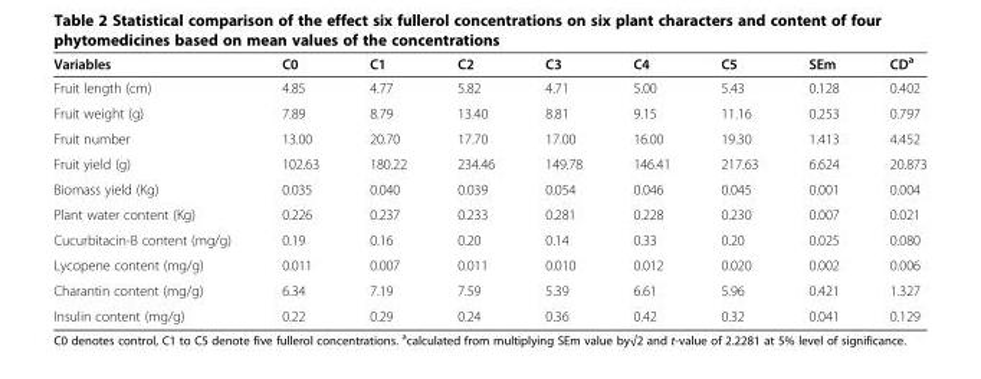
<table><thead><tr><td>Variables</td><td>C0</td><td>C1</td><td>C2</td><td>C3</td><td>C4</td><td>C5</td><td>SEm</td><td>CD<sup>a</sup></td></tr></thead><tbody><tr><td>Fruit length (cm)</td><td>4.85</td><td>4.77</td><td>5.82</td><td>4.71</td><td>5.00</td><td>5.43</td><td>0.128</td><td>0.402</td></tr><tr><td>Fruit weight (g)</td><td>7.89</td><td>8.79</td><td>13.40</td><td>8.81</td><td>9.15</td><td>11.16</td><td>0.253</td><td>0.797</td></tr><tr><td>Fruit number</td><td>13.00</td><td>20.70</td><td>17.70</td><td>17.00</td><td>16.00</td><td>19.30</td><td>1.413</td><td>4.452</td></tr><tr><td>Fruit yield (g)</td><td>102.63</td><td>180.22</td><td>234.46</td><td>149.78</td><td>146.41</td><td>217.63</td><td>6.624</td><td>20.873</td></tr><tr><td>Biomass yield (Kg)</td><td>0.035</td><td>0.040</td><td>0.039</td><td>0.054</td><td>0.046</td><td>0.045</td><td>0.001</td><td>0.004</td></tr><tr><td>Plant water content (Kg)</td><td>0.226</td><td>0.237</td><td>0.233</td><td>0.281</td><td>0.228</td><td>0.230</td><td>0.007</td><td>0.021</td></tr><tr><td>Cucurbitacin-B content (mg/g)</td><td>0.19</td><td>0.16</td><td>0.20</td><td>0.14</td><td>0.33</td><td>0.20</td><td>0.025</td><td>0.080</td></tr><tr><td>Lycopene content (mg/g)</td><td>0.011</td><td>0.007</td><td>0.011</td><td>0.010</td><td>0.012</td><td>0.020</td><td>0.002</td><td>0.006</td></tr><tr><td>Charantin content (mg/g)</td><td>6.34</td><td>7.19</td><td>7.59</td><td>5.39</td><td>6.61</td><td>5.96</td><td>0.421</td><td>1.327</td></tr><tr><td>Insulin content (mg/g)</td><td>0.22</td><td>0.29</td><td>0.24</td><td>0.36</td><td>0.42</td><td>0.32</td><td>0.041</td><td>0.129</td></tr></tbody></table>